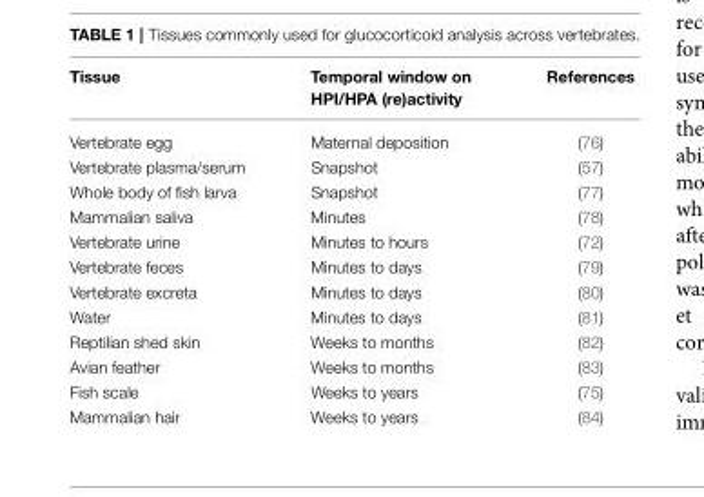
<table><thead><tr><td>Tissue</td><td>Temporal window on HPI/HPA (re)activity</td><td>References</td></tr></thead><tbody><tr><td>Vertebrate egg</td><td>Maternal deposition</td><td>(76)</td></tr><tr><td>Vertebrate plasma/serum</td><td>Snapshot</td><td>(57)</td></tr><tr><td>Whole body of fish larva</td><td>Snapshot</td><td>(77)</td></tr><tr><td>Mammalian saliva</td><td>Minutes</td><td>(78)</td></tr><tr><td>Vertebrate urine</td><td>Minutes to hours</td><td>(72)</td></tr><tr><td>Vertebrate feces</td><td>Minutes to days</td><td>(79)</td></tr><tr><td>Vertebrate excreta</td><td>Minutes to days</td><td>(80)</td></tr><tr><td>Water</td><td>Minutes to days</td><td>(81)</td></tr><tr><td>Reptilian shed skin</td><td>Weeks to months</td><td>(82)</td></tr><tr><td>Avian feather</td><td>Weeks to months</td><td>(83)</td></tr><tr><td>Fish scale</td><td>Weeks to years</td><td>(75)</td></tr><tr><td>Mammalian hair</td><td>Weeks to years</td><td>(84)</td></tr></tbody></table>